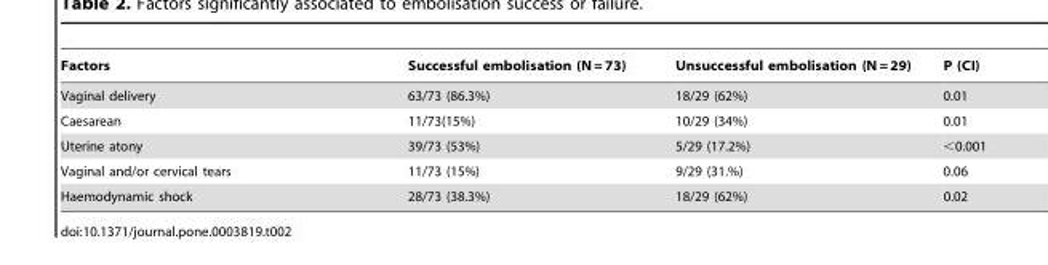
<table><thead><tr><td>Factors</td><td>Successful embolisation (N = 73)</td><td>Unsuccessful embolisation (N = 29)</td><td>P (CI)</td></tr></thead><tbody><tr><td>Vaginal delivery</td><td>63/73 (86.3%)</td><td>18/29 (62%)</td><td>0.01</td></tr><tr><td>Caesarean</td><td>11/73(15%)</td><td>10/29 (34%)</td><td>0.01</td></tr><tr><td>Uterine atony</td><td>39/73 (53%)</td><td>5/29 (17.2%)</td><td>&lt;0.001</td></tr><tr><td>Vaginal and/or cervical tears</td><td>11/73 (15%)</td><td>9/29 (31.%)</td><td>0.06</td></tr><tr><td>Haemodynamic shock</td><td>28/73 (38.3%)</td><td>18/29 (62%)</td><td>0.02</td></tr></tbody></table>